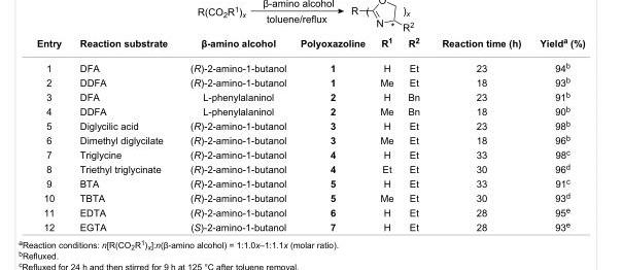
<table><tbody><tr><td>Entry</td><td>Reaction substrate</td><td>β-amino alcohol</td><td>Polyoxazoline</td><td>R<sup>1</sup></td><td>R<sup>2</sup></td><td>Reaction time (h)</td><td>Yield<sup>a</sup> (%)</td></tr><tr><td>1</td><td>DFA</td><td>(R)-2-amino-1-butanol</td><td>1</td><td>H</td><td>Et</td><td>23</td><td>94<sup>b</sup></td></tr><tr><td>2</td><td>DDFA</td><td>(R)-2-amino-1-butanol</td><td>1</td><td>Me</td><td>Et</td><td>18</td><td>93<sup>b</sup></td></tr><tr><td>3</td><td>DFA</td><td>L-phenylalaninol</td><td>2</td><td>H</td><td>Bn</td><td>23</td><td>91<sup>b</sup></td></tr><tr><td>4</td><td>DDFA</td><td>L-phenylalaninol</td><td>2</td><td>Me</td><td>Bn</td><td>18</td><td>90<sup>b</sup></td></tr><tr><td>5</td><td>Diglycilic acid</td><td>(R)-2-amino-1-butanol</td><td>3</td><td>H</td><td>Et</td><td>23</td><td>98<sup>b</sup></td></tr><tr><td>6</td><td>Dimethyl diglycilate</td><td>(R)-2-amino-1-butanol</td><td>3</td><td>Me</td><td>Et</td><td>18</td><td>96<sup>b</sup></td></tr><tr><td>7</td><td>Triglycine</td><td>(R)-2-amino-1-butanol</td><td>4</td><td>H</td><td>Et</td><td>33</td><td>98<sup>c</sup></td></tr><tr><td>8</td><td>Triethyl triglycinate</td><td>(R)-2-amino-1-butanol</td><td>4</td><td>Et</td><td>Et</td><td>30</td><td>96<sup>d</sup></td></tr><tr><td>9</td><td>BTA</td><td>(R)-2-amino-1-butanol</td><td>5</td><td>H</td><td>Et</td><td>33</td><td>91<sup>c</sup></td></tr><tr><td>10</td><td>TBTA</td><td>(R)-2-amino-1-butanol</td><td>5</td><td>Me</td><td>Et</td><td>30</td><td>93<sup>d</sup></td></tr><tr><td>11</td><td>EDTA</td><td>(R)-2-amino-1-butanol</td><td>6</td><td>H</td><td>Et</td><td>28</td><td>95<sup>e</sup></td></tr><tr><td>12</td><td>EGTA</td><td>(S)-2-amino-1-butanol</td><td>7</td><td>H</td><td>Et</td><td>28</td><td>93<sup>e</sup></td></tr></tbody></table>